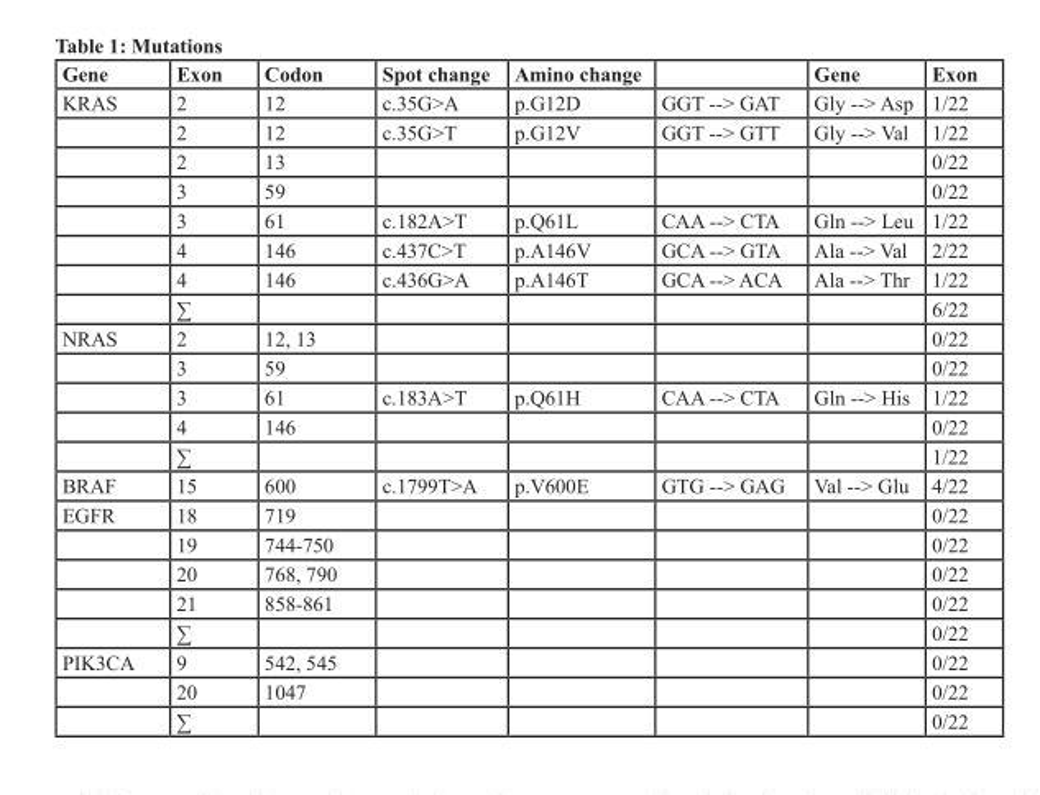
<table><thead><tr><td>Gene</td><td>Exon</td><td>Codon</td><td>Spot change</td><td>Amino change</td><td></td><td>Gene</td><td>Exon</td></tr></thead><tbody><tr><td rowspan="8">KRAS</td><td>2</td><td>12</td><td>c.35G&gt;A</td><td>p.G12D</td><td>GGT --&gt; GAT</td><td>Gly --&gt; Asp</td><td>1/22</td></tr><tr><td>2</td><td>12</td><td>c.35G&gt;T</td><td>p.G12V</td><td>GGT --&gt; GTT</td><td>Gly --&gt; Val</td><td>1/22</td></tr><tr><td>2</td><td>13</td><td></td><td></td><td></td><td></td><td>0/22</td></tr><tr><td>3</td><td>59</td><td></td><td></td><td></td><td></td><td>0/22</td></tr><tr><td>3</td><td>61</td><td>c.182A&gt;T</td><td>p.Q61L</td><td>CAA --&gt; CTA</td><td>Gln --&gt; Leu</td><td>1/22</td></tr><tr><td>4</td><td>146</td><td>c.437C&gt;T</td><td>p.A146V</td><td>GCA --&gt; GTA</td><td>Ala --&gt; Val</td><td>2/22</td></tr><tr><td>4</td><td>146</td><td>c.436G&gt;A</td><td>p.A146T</td><td>GCA --&gt; ACA</td><td>Ala --&gt; Thr</td><td>1/22</td></tr><tr><td>∑</td><td></td><td></td><td></td><td></td><td></td><td>6/22</td></tr><tr><td rowspan="5">NRAS</td><td>2</td><td>12, 13</td><td></td><td></td><td></td><td></td><td>0/22</td></tr><tr><td>3</td><td>59</td><td></td><td></td><td></td><td></td><td>0/22</td></tr><tr><td>3</td><td>61</td><td>c.183A&gt;T</td><td>p.Q61H</td><td>CAA --&gt; CTA</td><td>Gln --&gt; His</td><td>1/22</td></tr><tr><td>4</td><td>146</td><td></td><td></td><td></td><td></td><td>0/22</td></tr><tr><td>∑</td><td></td><td></td><td></td><td></td><td></td><td>1/22</td></tr><tr><td>BRAF</td><td>15</td><td>600</td><td>c.1799T&gt;A</td><td>p.V600E</td><td>GTG --&gt; GAG</td><td>Val --&gt; Glu</td><td>4/22</td></tr><tr><td rowspan="5">EGFR</td><td>18</td><td>719</td><td></td><td></td><td></td><td></td><td>0/22</td></tr><tr><td>19</td><td>744-750</td><td></td><td></td><td></td><td></td><td>0/22</td></tr><tr><td>20</td><td>768, 790</td><td></td><td></td><td></td><td></td><td>0/22</td></tr><tr><td>21</td><td>858-861</td><td></td><td></td><td></td><td></td><td>0/22</td></tr><tr><td>∑</td><td></td><td></td><td></td><td></td><td></td><td>0/22</td></tr><tr><td rowspan="3">PIK3CA</td><td>9</td><td>542, 545</td><td></td><td></td><td></td><td></td><td>0/22</td></tr><tr><td>20</td><td>1047</td><td></td><td></td><td></td><td></td><td>0/22</td></tr><tr><td>∑</td><td></td><td></td><td></td><td></td><td></td><td>0/22</td></tr></tbody></table>